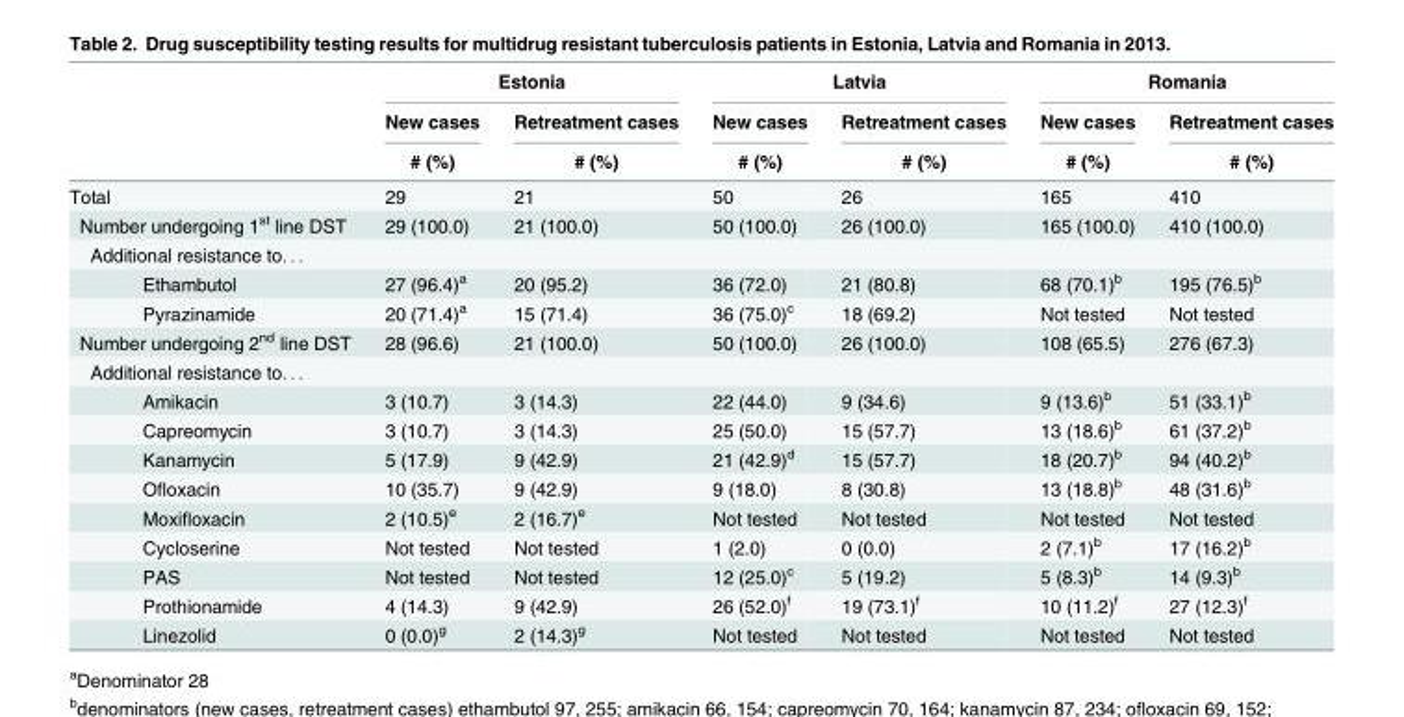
<table><thead><tr><td rowspan="3"></td><td colspan="2">Estonia</td><td colspan="2">Latvia</td><td colspan="2">Romania</td></tr><tr><td rowspan="2">New cases # (%)</td><td rowspan="2">Retreatment cases # (%)</td><td rowspan="2">New cases # (%)</td><td rowspan="2">Retreatment cases # (%)</td><td rowspan="2">New cases # (%)</td><td rowspan="2">Retreatment cases # (%)</td></tr><tr></tr></thead><tbody><tr><td>Total</td><td>29</td><td>21</td><td>50</td><td>26</td><td>165</td><td>410</td></tr><tr><td>Number undergoing 1<sup>st</sup> line DST</td><td>29 (100.0)</td><td>21 (100.0)</td><td>50 (100.0)</td><td>26 (100.0)</td><td>165 (100.0)</td><td>410 (100.0)</td></tr><tr><td colspan="7">Additional resistance to. . .</td></tr><tr><td>Ethambutol</td><td>27 (96.4)<sup>a</sup></td><td>20 (95.2)</td><td>36 (72.0)</td><td>21 (80.8)</td><td>68 (70.1)<sup>b</sup></td><td>195 (76.5)<sup>b</sup></td></tr><tr><td>Pyrazinamide</td><td>20 (71.4)<sup>a</sup></td><td>15 (71.4)</td><td>36 (75.0)<sup>c</sup></td><td>18 (69.2)</td><td>Not tested</td><td>Not tested</td></tr><tr><td>Number undergoing 2<sup>nd</sup> line DST</td><td>28 (96.6)</td><td>21 (100.0)</td><td>50 (100.0)</td><td>26 (100.0)</td><td>108 (65.5)</td><td>276 (67.3)</td></tr><tr><td colspan="7">Additional resistance to. . .</td></tr><tr><td>Amikacin</td><td>3 (10.7)</td><td>3 (14.3)</td><td>22 (44.0)</td><td>9 (34.6)</td><td>9 (13.6)<sup>b</sup></td><td>51 (33.1)<sup>b</sup></td></tr><tr><td>Capreomycin</td><td>3 (10.7)</td><td>3 (14.3)</td><td>25 (50.0)</td><td>15 (57.7)</td><td>13 (18.6)<sup>b</sup></td><td>61 (37.2)<sup>b</sup></td></tr><tr><td>Kanamycin</td><td>5 (17.9)</td><td>9 (42.9)</td><td>21 (42.9)<sup>d</sup></td><td>15 (57.7)</td><td>18 (20.7)<sup>b</sup></td><td>94 (40.2)<sup>b</sup></td></tr><tr><td>Ofloxacin</td><td>10 (35.7)</td><td>9 (42.9)</td><td>9 (18.0)</td><td>8 (30.8)</td><td>13 (18.8)<sup>b</sup></td><td>48 (31.6)<sup>b</sup></td></tr><tr><td>Moxifloxacin</td><td>2 (10.5)<sup>e</sup></td><td>2 (16.7)<sup>e</sup></td><td>Not tested</td><td>Not tested</td><td>Not tested</td><td>Not tested</td></tr><tr><td>Cycloserine</td><td>Not tested</td><td>Not tested</td><td>1 (2.0)</td><td>0 (0.0)</td><td>2 (7.1)<sup>b</sup></td><td>17 (16.2)<sup>b</sup></td></tr><tr><td>PAS</td><td>Not tested</td><td>Not tested</td><td>12 (25.0)<sup>c</sup></td><td>5 (19.2)</td><td>5 (8.3)<sup>b</sup></td><td>14 (9.3)<sup>b</sup></td></tr><tr><td>Prothionamide</td><td>4 (14.3)</td><td>9 (42.9)</td><td>26 (52.0)<sup>f</sup></td><td>19 (73.1)<sup>f</sup></td><td>10 (11.2)<sup>f</sup></td><td>27 (12.3)<sup>f</sup></td></tr><tr><td>Linezolid</td><td>0 (0.0)<sup>g</sup></td><td>2 (14.3)<sup>g</sup></td><td>Not tested</td><td>Not tested</td><td>Not tested</td><td>Not tested</td></tr></tbody></table>